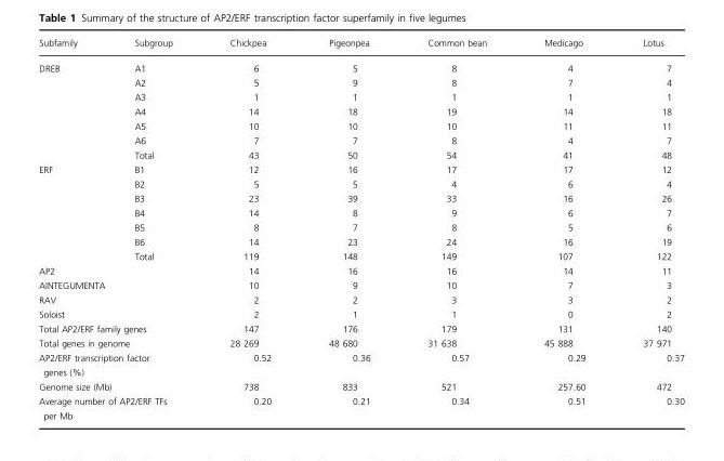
<table><thead><tr><td>Subfamily</td><td>Subgroup</td><td>Chickpea</td><td>Pigeonpea</td><td>Common bean</td><td>Medicago</td><td>Lotus</td></tr></thead><tbody><tr><td rowspan="7">DREB</td><td>A1</td><td>6</td><td>5</td><td>8</td><td>4</td><td>7</td></tr><tr><td>A2</td><td>5</td><td>9</td><td>8</td><td>7</td><td>4</td></tr><tr><td>A3</td><td>1</td><td>1</td><td>1</td><td>1</td><td>1</td></tr><tr><td>A4</td><td>14</td><td>18</td><td>19</td><td>14</td><td>18</td></tr><tr><td>A5</td><td>10</td><td>10</td><td>10</td><td>11</td><td>11</td></tr><tr><td>A6</td><td>7</td><td>7</td><td>8</td><td>4</td><td>7</td></tr><tr><td>Total</td><td>43</td><td>50</td><td>54</td><td>41</td><td>48</td></tr><tr><td rowspan="7">ERF</td><td>B1</td><td>12</td><td>16</td><td>17</td><td>17</td><td>12</td></tr><tr><td>B2</td><td>5</td><td>5</td><td>4</td><td>6</td><td>4</td></tr><tr><td>B3</td><td>23</td><td>39</td><td>33</td><td>16</td><td>26</td></tr><tr><td>B4</td><td>14</td><td>8</td><td>9</td><td>6</td><td>7</td></tr><tr><td>B5</td><td>8</td><td>7</td><td>8</td><td>5</td><td>6</td></tr><tr><td>B6</td><td>14</td><td>23</td><td>24</td><td>16</td><td>19</td></tr><tr><td>Total</td><td>119</td><td>148</td><td>149</td><td>107</td><td>122</td></tr><tr><td colspan="2">AP2</td><td>14</td><td>16</td><td>16</td><td>14</td><td>11</td></tr><tr><td colspan="2">AINTEGUMENTA</td><td>10</td><td>9</td><td>10</td><td>7</td><td>3</td></tr><tr><td colspan="2">RAV</td><td>2</td><td>2</td><td>3</td><td>3</td><td>2</td></tr><tr><td colspan="2">Soloist</td><td>2</td><td>1</td><td>1</td><td>0</td><td>2</td></tr><tr><td colspan="2">Total AP2/ERF family genes</td><td>147</td><td>176</td><td>179</td><td>131</td><td>140</td></tr><tr><td colspan="2">Total genes in genome</td><td>28 269</td><td>48 680</td><td>31 638</td><td>45 888</td><td>37 971</td></tr><tr><td colspan="2">AP2/ERF transcription factor genes (%)</td><td>0.52</td><td>0.36</td><td>0.57</td><td>0.29</td><td>0.37</td></tr><tr><td colspan="2">Genome size (Mb)</td><td>738</td><td>833</td><td>521</td><td>257.60</td><td>472</td></tr><tr><td colspan="2">Average number of AP2/ERF TFs per Mb</td><td>0.20</td><td>0.21</td><td>0.34</td><td>0.51</td><td>0.30</td></tr></tbody></table>